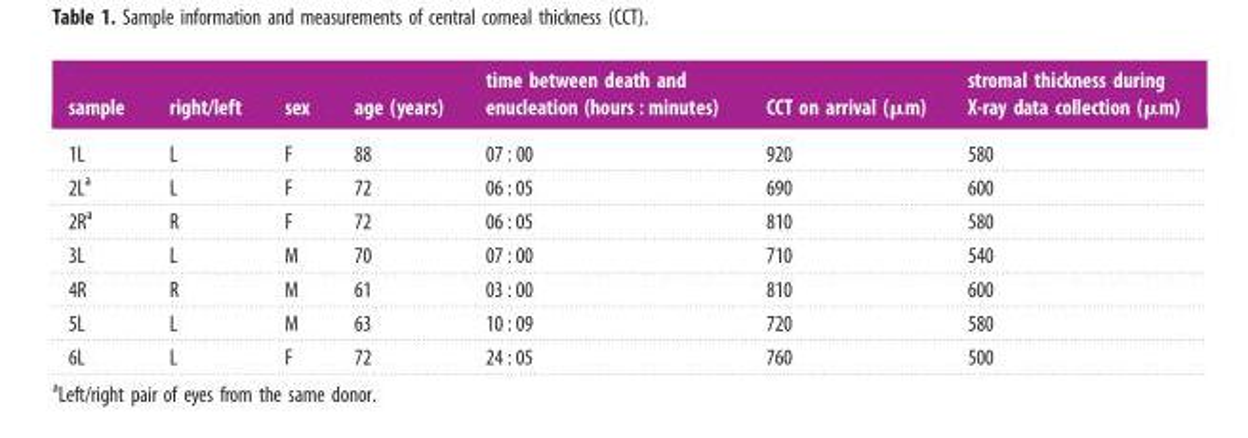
<table><thead><tr><td>sample</td><td>right/left</td><td>sex</td><td>age (years)</td><td>time between death and enucleation (hours : minutes)</td><td>CCT on arrival (µm)</td><td>stromal thickness during X-ray data collection (µm)</td></tr></thead><tbody><tr><td>1L</td><td>L</td><td>F</td><td>88</td><td>07 : 00</td><td>920</td><td>580</td></tr><tr><td>2L<sup>a</sup></td><td>L</td><td>F</td><td>72</td><td>06 : 05</td><td>690</td><td>600</td></tr><tr><td>2R<sup>a</sup></td><td>R</td><td>F</td><td>72</td><td>06 : 05</td><td>810</td><td>580</td></tr><tr><td>3L</td><td>L</td><td>M</td><td>70</td><td>07 : 00</td><td>710</td><td>540</td></tr><tr><td>4R</td><td>R</td><td>M</td><td>61</td><td>03 : 00</td><td>810</td><td>600</td></tr><tr><td>5L</td><td>L</td><td>M</td><td>63</td><td>10 : 09</td><td>720</td><td>580</td></tr><tr><td>6L</td><td>L</td><td>F</td><td>72</td><td>24 : 05</td><td>760</td><td>500</td></tr></tbody></table>